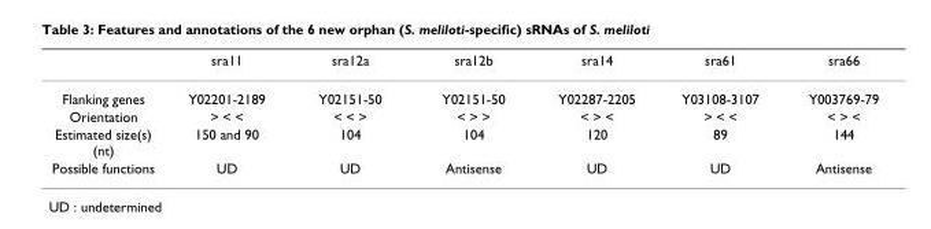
<table><thead><tr><td></td><td>sra11</td><td>sra12a</td><td>sra12b</td><td>sra14</td><td>sra61</td><td>sra66</td></tr></thead><tbody><tr><td>Flanking genes</td><td>Y02201-2189</td><td>Y02151-50</td><td>Y02151-50</td><td>Y02287-2205</td><td>Y03108-3107</td><td>Y003769-79</td></tr><tr><td>Orientation</td><td>&gt; &lt; &lt;</td><td>&lt; &lt; &gt;</td><td>&lt; &gt; &gt;</td><td>&lt; &gt; &lt;</td><td>&gt; &lt; &lt;</td><td>&lt; &gt; &lt;</td></tr><tr><td>Estimated size(s) (nt)</td><td>150 and 90</td><td>104</td><td>104</td><td>120</td><td>89</td><td>144</td></tr><tr><td>Possible functions</td><td>UD</td><td>UD</td><td>Antisense</td><td>UD</td><td>UD</td><td>Antisense</td></tr></tbody></table>